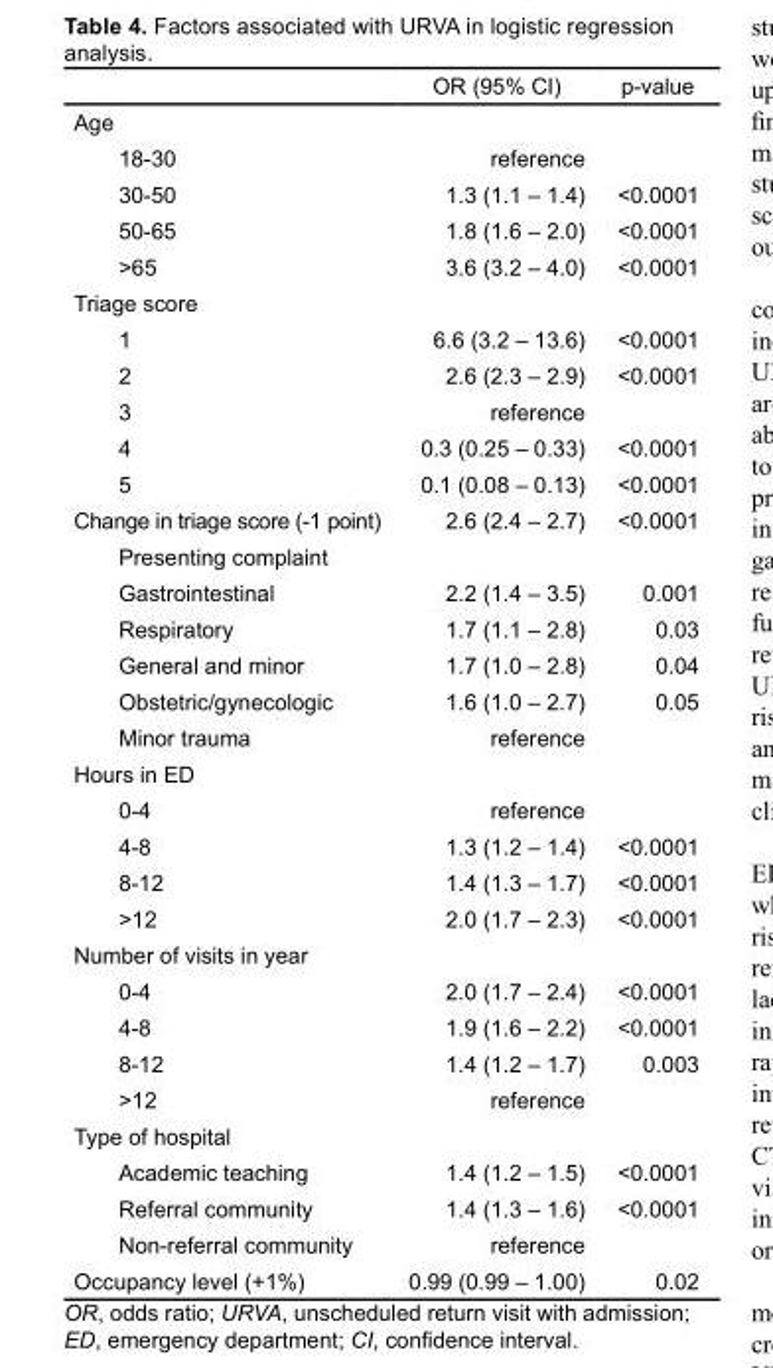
<table><thead><tr><td></td><td>OR (95% CI)</td><td>p-value</td></tr></thead><tbody><tr><td colspan="3">Age</td></tr><tr><td>18-30</td><td>reference</td><td></td></tr><tr><td>30-50</td><td>1.3 (1.1 – 1.4)</td><td>&lt;0.0001</td></tr><tr><td>50-65</td><td>1.8 (1.6 – 2.0)</td><td>&lt;0.0001</td></tr><tr><td>&gt;65</td><td>3.6 (3.2 – 4.0)</td><td>&lt;0.0001</td></tr><tr><td colspan="3">Triage score</td></tr><tr><td>1</td><td>6.6 (3.2 – 13.6)</td><td>&lt;0.0001</td></tr><tr><td>2</td><td>2.6 (2.3 – 2.9)</td><td>&lt;0.0001</td></tr><tr><td>3</td><td>reference</td><td></td></tr><tr><td>4</td><td>0.3 (0.25 – 0.33)</td><td>&lt;0.0001</td></tr><tr><td>5</td><td>0.1 (0.08 – 0.13)</td><td>&lt;0.0001</td></tr><tr><td>Change in triage score (-1 point)</td><td>2.6 (2.4 – 2.7)</td><td>&lt;0.0001</td></tr><tr><td colspan="3">Presenting complaint</td></tr><tr><td>Gastrointestinal</td><td>2.2 (1.4 – 3.5)</td><td>0.001</td></tr><tr><td>Respiratory</td><td>1.7 (1.1 – 2.8)</td><td>0.03</td></tr><tr><td>General and minor</td><td>1.7 (1.0 – 2.8)</td><td>0.04</td></tr><tr><td>Obstetric/gynecologic</td><td>1.6 (1.0 – 2.7)</td><td>0.05</td></tr><tr><td>Minor trauma</td><td>reference</td><td></td></tr><tr><td colspan="3">Hours in ED</td></tr><tr><td>0-4</td><td>reference</td><td></td></tr><tr><td>4-8</td><td>1.3 (1.2 – 1.4)</td><td>&lt;0.0001</td></tr><tr><td>8-12</td><td>1.4 (1.3 – 1.7)</td><td>&lt;0.0001</td></tr><tr><td>&gt;12</td><td>2.0 (1.7 – 2.3)</td><td>&lt;0.0001</td></tr><tr><td colspan="3">Number of visits in year</td></tr><tr><td>0-4</td><td>2.0 (1.7 – 2.4)</td><td>&lt;0.0001</td></tr><tr><td>4-8</td><td>1.9 (1.6 – 2.2)</td><td>&lt;0.0001</td></tr><tr><td>8-12</td><td>1.4 (1.2 – 1.7)</td><td>0.003</td></tr><tr><td>&gt;12</td><td>reference</td><td></td></tr><tr><td colspan="3">Type of hospital</td></tr><tr><td>Academic teaching</td><td>1.4 (1.2 – 1.5)</td><td>&lt;0.0001</td></tr><tr><td>Referral community</td><td>1.4 (1.3 – 1.6)</td><td>&lt;0.0001</td></tr><tr><td>Non-referral community</td><td>reference</td><td></td></tr><tr><td>Occupancy level (+1%)</td><td>0.99 (0.99 – 1.00)</td><td>0.02</td></tr></tbody></table>